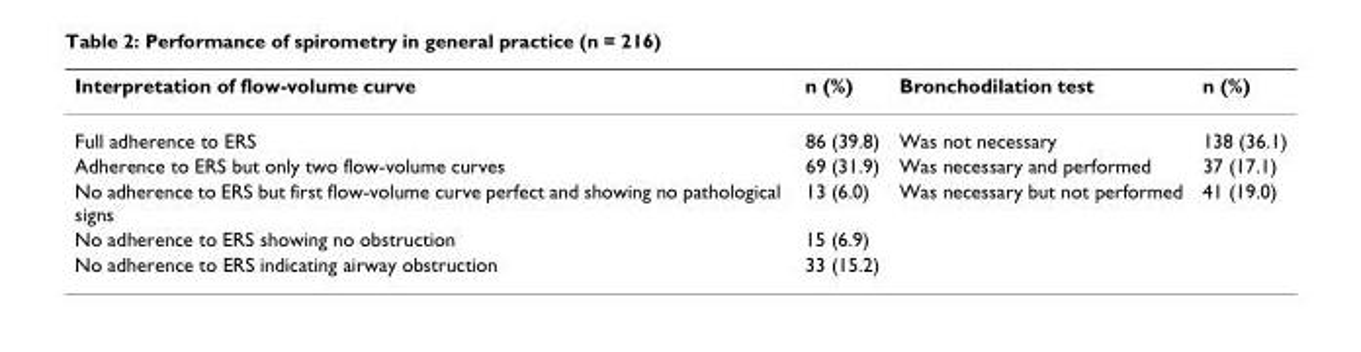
<table><thead><tr><td>Interpretation of flow-volume curve</td><td>n (%)</td><td>Bronchodilation test</td><td>n (%)</td></tr></thead><tbody><tr><td>Full adherence to ERS</td><td>86 (39.8)</td><td>Was not necessary</td><td>138 (36.1)</td></tr><tr><td>Adherence to ERS but only two flow-volume curves</td><td>69 (31.9)</td><td>Was necessary and performed</td><td>37 (17.1)</td></tr><tr><td>No adherence to ERS but first flow-volume curve perfect and showing no pathological signs</td><td>13 (6.0)</td><td>Was necessary but not performed</td><td>41 (19.0)</td></tr><tr><td>No adherence to ERS showing no obstruction</td><td>15 (6.9)</td><td></td><td></td></tr><tr><td>No adherence to ERS indicating airway obstruction</td><td>33 (15.2)</td><td></td><td></td></tr></tbody></table>